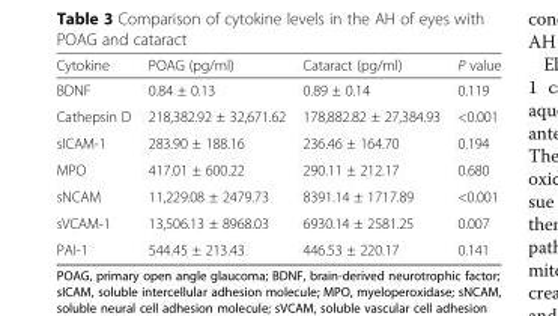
<table><thead><tr><td>Cytokine</td><td>POAG (pg/ml)</td><td>Cataract (pg/ml)</td><td>P value</td></tr></thead><tbody><tr><td>BDNF</td><td>0.84 ± 0.13</td><td>0.89 ± 0.14</td><td>0.119</td></tr><tr><td>Cathepsin D</td><td>218,382.92 ± 32,671.62</td><td>178,882.82 ± 27,384.93</td><td>&lt;0.001</td></tr><tr><td>sICAM-1</td><td>283.90 ± 188.16</td><td>236.46 ± 164.70</td><td>0.194</td></tr><tr><td>MPO</td><td>417.01 ± 600.22</td><td>290.11 ± 212.17</td><td>0.680</td></tr><tr><td>sNCAM</td><td>11,229.08 ± 2479.73</td><td>8391.14 ± 1717.89</td><td>&lt;0.001</td></tr><tr><td>sVCAM-1</td><td>13,506.13 ± 8968.03</td><td>6930.14 ± 2581.25</td><td>0.007</td></tr><tr><td>PAI-1</td><td>544.45 ± 213.43</td><td>446.53 ± 220.17</td><td>0.141</td></tr></tbody></table>